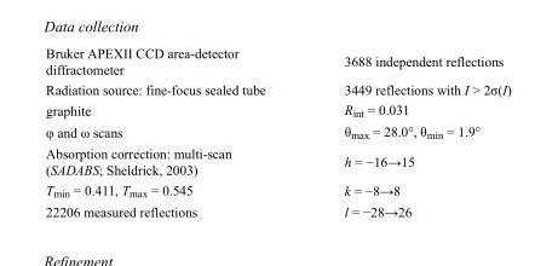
<table><tbody><tr><td>Bruker APEXII CCD area-detector diffractometer</td><td>3688 independent reflections</td></tr><tr><td>Radiation source: fine-focus sealed tube</td><td>3449 reflections with I &gt; 2σ(I)</td></tr><tr><td>graphite</td><td>R<sub>int</sub> = 0.031</td></tr><tr><td>φ and ω scans</td><td>θ<sub>max</sub> = 28.0°, θ<sub>min</sub> = 1.9°</td></tr><tr><td>Absorption correction: multi-scan (SADABS; Sheldrick, 2003)</td><td>h = −16→15</td></tr><tr><td>T<sub>min</sub> = 0.411, T<sub>max</sub> = 0.545</td><td>k = −8→8</td></tr><tr><td>22206 measured reflections</td><td>l = −28→26</td></tr></tbody></table>